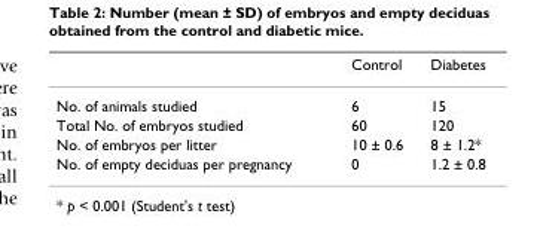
<table><thead><tr><td></td><td>Control</td><td>Diabetes</td></tr></thead><tbody><tr><td>No. of animals studied</td><td>6</td><td>15</td></tr><tr><td>Total No. of embryos studied</td><td>60</td><td>120</td></tr><tr><td>No. of embryos per litter</td><td>10 ± 0.6</td><td>8 ± 1.2*</td></tr><tr><td>No. of empty deciduas per pregnancy</td><td>0</td><td>1.2 ± 0.8</td></tr></tbody></table>